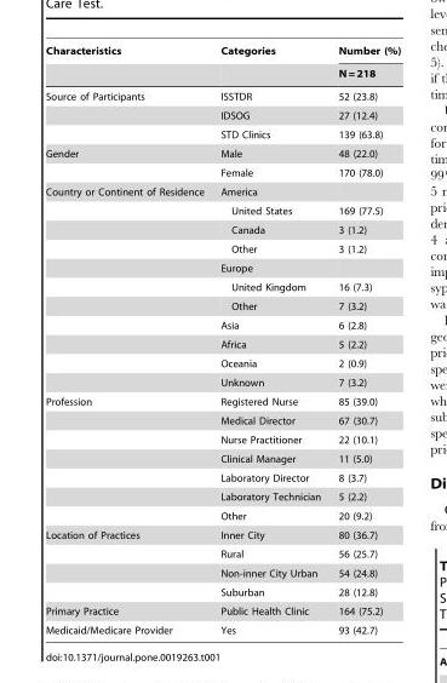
<table><thead><tr><td rowspan="2">Characteristics</td><td rowspan="2">Categories</td><td rowspan="2">Number (%) N = 218</td></tr><tr></tr></thead><tbody><tr><td rowspan="3">Source of Participants</td><td>ISSTDR</td><td>52 (23.8)</td></tr><tr><td>IDSOG</td><td>27 (12.4)</td></tr><tr><td>STD Clinics</td><td>139 (63.8)</td></tr><tr><td rowspan="2">Gender</td><td>Male</td><td>48 (22.0)</td></tr><tr><td>Female</td><td>170 (78.0)</td></tr><tr><td rowspan="11">Country or Continent of Residence</td><td>America</td><td></td></tr><tr><td>United States</td><td>169 (77.5)</td></tr><tr><td>Canada</td><td>3 (1.2)</td></tr><tr><td>Other</td><td>3 (1.2)</td></tr><tr><td>Europe</td><td></td></tr><tr><td>United Kingdom</td><td>16 (7.3)</td></tr><tr><td>Other</td><td>7 (3.2)</td></tr><tr><td>Asia</td><td>6 (2.8)</td></tr><tr><td>Africa</td><td>5 (2.2)</td></tr><tr><td>Oceania</td><td>2 (0.9)</td></tr><tr><td>Unknown</td><td>7 (3.2)</td></tr><tr><td rowspan="7">Profession</td><td>Registered Nurse</td><td>85 (39.0)</td></tr><tr><td>Medical Director</td><td>67 (30.7)</td></tr><tr><td>Nurse Practitioner</td><td>22 (10.1)</td></tr><tr><td>Clinical Manager</td><td>11 (5.0)</td></tr><tr><td>Laboratory Director</td><td>8 (3.7)</td></tr><tr><td>Laboratory Technician</td><td>5 (2.2)</td></tr><tr><td>Other</td><td>20 (9.2)</td></tr><tr><td rowspan="4">Location of Practices</td><td>Inner City</td><td>80 (36.7)</td></tr><tr><td>Rural</td><td>56 (25.7)</td></tr><tr><td>Non-inner City Urban</td><td>54 (24.8)</td></tr><tr><td>Suburban</td><td>28 (12.8)</td></tr><tr><td>Primary Practice</td><td>Public Health Clinic</td><td>164 (75.2)</td></tr><tr><td>Medicaid/Medicare Provider</td><td>Yes</td><td>93 (42.7)</td></tr></tbody></table>